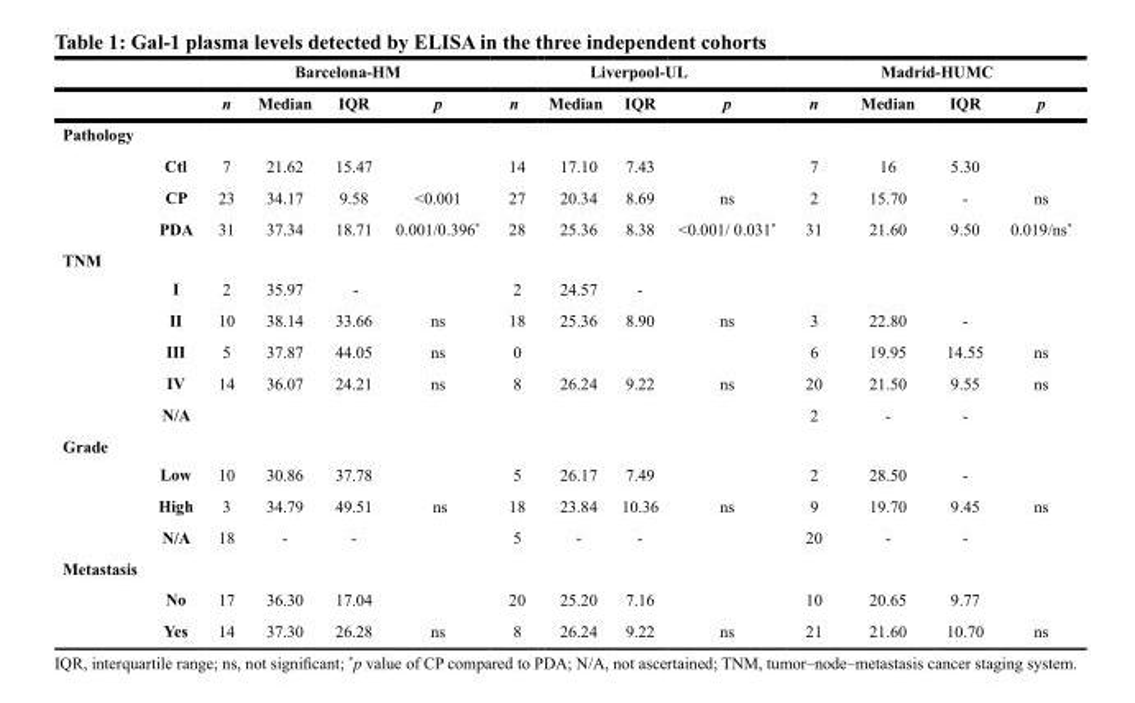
<table><thead><tr><td rowspan="2"></td><td rowspan="2"></td><td colspan="4">Barcelona-HM</td><td colspan="4">Liverpool-UL</td><td colspan="4">Madrid-HUMC</td></tr><tr><td>n</td><td>Median</td><td>IQR</td><td>p</td><td>n</td><td>Median</td><td>IQR</td><td>p</td><td>n</td><td>Median</td><td>IQR</td><td>p</td></tr></thead><tbody><tr><td colspan="14">Pathology</td></tr><tr><td></td><td>Ctl</td><td>7</td><td>21.62</td><td>15.47</td><td></td><td>14</td><td>17.10</td><td>7.43</td><td></td><td>7</td><td>16</td><td>5.30</td><td></td></tr><tr><td></td><td>CP</td><td>23</td><td>34.17</td><td>9.58</td><td>&lt;0.001</td><td>27</td><td>20.34</td><td>8.69</td><td>ns</td><td>2</td><td>15.70</td><td>-</td><td>ns</td></tr><tr><td></td><td>PDA</td><td>31</td><td>37.34</td><td>18.71</td><td>0.001/0.396*</td><td>28</td><td>25.36</td><td>8.38</td><td>&lt;0.001/ 0.031*</td><td>31</td><td>21.60</td><td>9.50</td><td>0.019/ns*</td></tr><tr><td colspan="14">TNM</td></tr><tr><td></td><td>I</td><td>2</td><td>35.97</td><td>-</td><td></td><td>2</td><td>24.57</td><td>-</td><td></td><td></td><td></td><td></td><td></td></tr><tr><td></td><td>II</td><td>10</td><td>38.14</td><td>33.66</td><td>ns</td><td>18</td><td>25.36</td><td>8.90</td><td>ns</td><td>3</td><td>22.80</td><td>-</td><td></td></tr><tr><td></td><td>III</td><td>5</td><td>37.87</td><td>44.05</td><td>ns</td><td>0</td><td></td><td></td><td></td><td>6</td><td>19.95</td><td>14.55</td><td>ns</td></tr><tr><td></td><td>IV</td><td>14</td><td>36.07</td><td>24.21</td><td>ns</td><td>8</td><td>26.24</td><td>9.22</td><td>ns</td><td>20</td><td>21.50</td><td>9.55</td><td>ns</td></tr><tr><td></td><td>N/A</td><td></td><td></td><td></td><td></td><td></td><td></td><td></td><td></td><td>2</td><td>-</td><td>-</td><td></td></tr><tr><td colspan="14">Grade</td></tr><tr><td></td><td>Low</td><td>10</td><td>30.86</td><td>37.78</td><td></td><td>5</td><td>26.17</td><td>7.49</td><td></td><td>2</td><td>28.50</td><td>-</td><td></td></tr><tr><td></td><td>High</td><td>3</td><td>34.79</td><td>49.51</td><td>ns</td><td>18</td><td>23.84</td><td>10.36</td><td>ns</td><td>9</td><td>19.70</td><td>9.45</td><td>ns</td></tr><tr><td></td><td>N/A</td><td>18</td><td>-</td><td>-</td><td></td><td>5</td><td>-</td><td>-</td><td></td><td>20</td><td>-</td><td>-</td><td></td></tr><tr><td colspan="14">Metastasis</td></tr><tr><td></td><td>No</td><td>17</td><td>36.30</td><td>17.04</td><td></td><td>20</td><td>25.20</td><td>7.16</td><td></td><td>10</td><td>20.65</td><td>9.77</td><td></td></tr><tr><td></td><td>Yes</td><td>14</td><td>37.30</td><td>26.28</td><td>ns</td><td>8</td><td>26.24</td><td>9.22</td><td>ns</td><td>21</td><td>21.60</td><td>10.70</td><td>ns</td></tr></tbody></table>